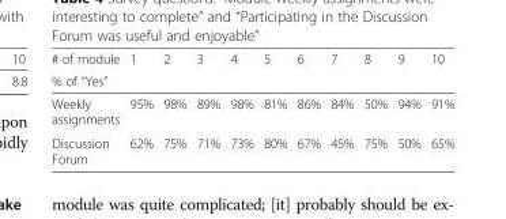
<table><thead><tr><td rowspan="2"># of module % of “Yes”</td><td rowspan="2">1</td><td rowspan="2">2</td><td rowspan="2">3</td><td rowspan="2">4</td><td rowspan="2">5</td><td rowspan="2">6</td><td rowspan="2">7</td><td rowspan="2">8</td><td rowspan="2">9</td><td rowspan="2">10</td></tr><tr></tr></thead><tbody><tr><td>Weekly assignments</td><td>95%</td><td>98%</td><td>89%</td><td>98%</td><td>81%</td><td>86%</td><td>84%</td><td>50%</td><td>94%</td><td>91%</td></tr><tr><td>Discussion Forum</td><td>62%</td><td>75%</td><td>71%</td><td>73%</td><td>80%</td><td>67%</td><td>45%</td><td>75%</td><td>50%</td><td>65%</td></tr></tbody></table>